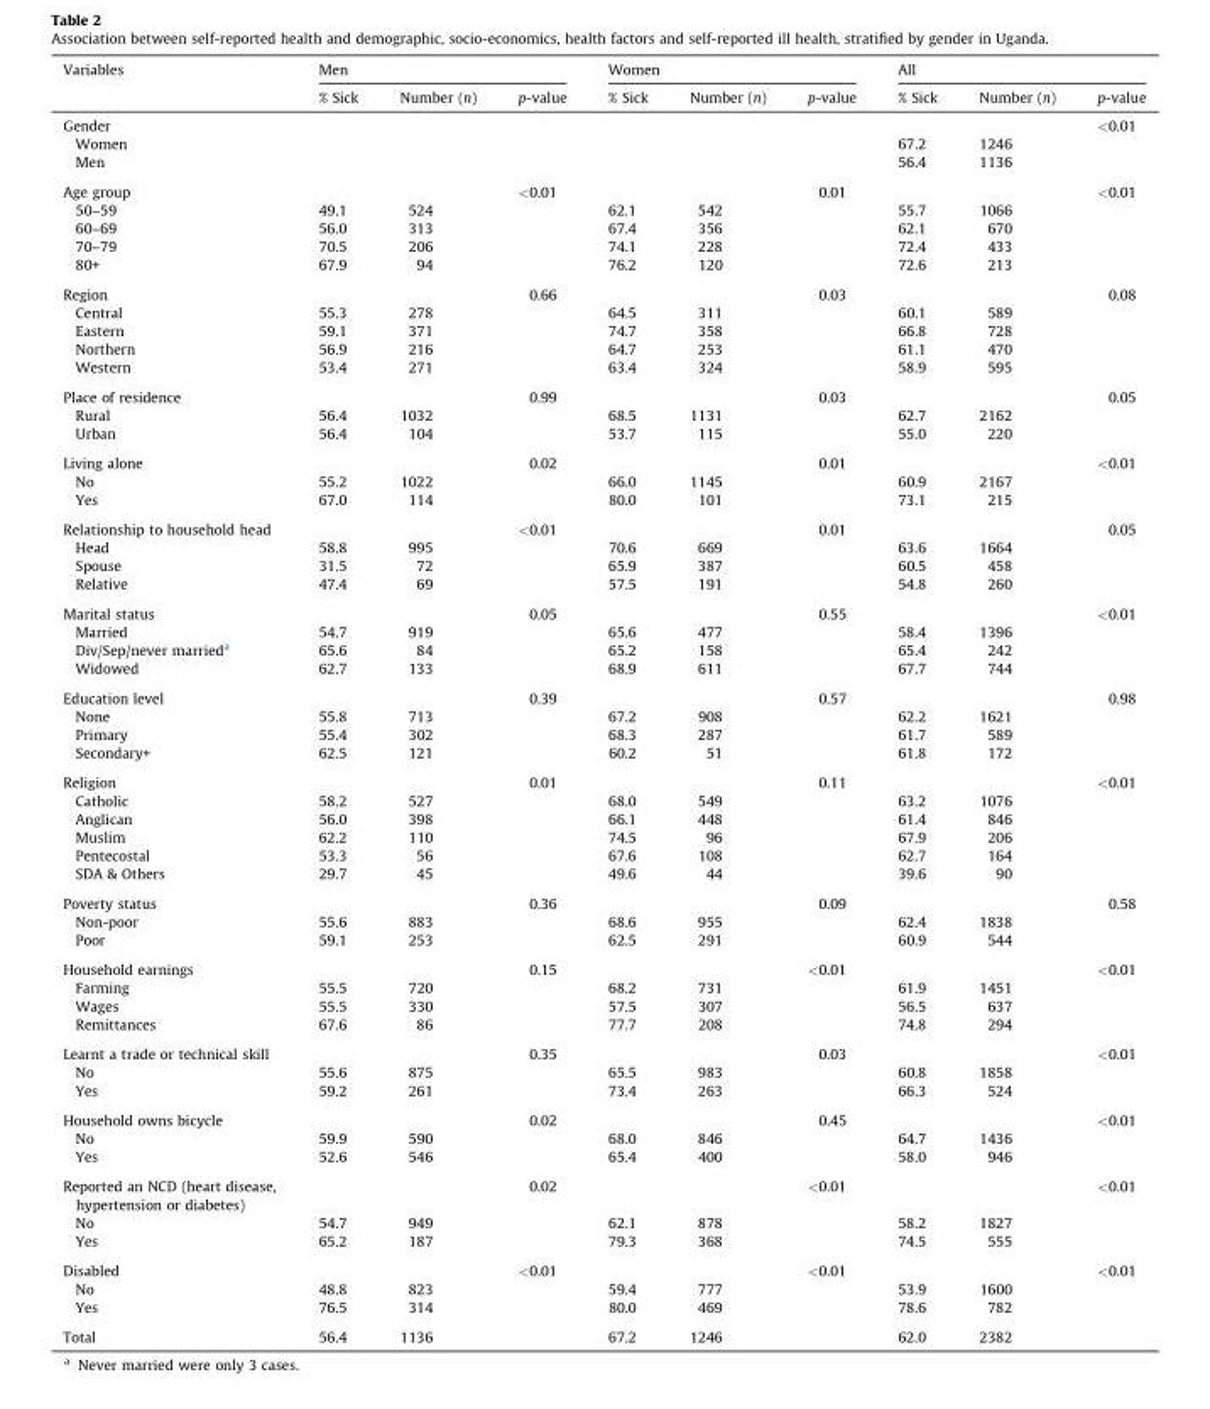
<table><thead><tr><td rowspan="2">Variables</td><td colspan="3">Men</td><td colspan="3">Women</td><td colspan="3">All</td></tr><tr><td>% Sick</td><td>Number (n)</td><td>p-value</td><td>% Sick</td><td>Number (n)</td><td>p-value</td><td>% Sick</td><td>Number (n)</td><td>p-value</td></tr></thead><tbody><tr><td>Gender</td><td></td><td></td><td></td><td></td><td></td><td></td><td></td><td></td><td>&lt;0.01</td></tr><tr><td>Women</td><td></td><td></td><td></td><td></td><td></td><td></td><td>67.2</td><td>1246</td><td></td></tr><tr><td>Men</td><td></td><td></td><td></td><td></td><td></td><td></td><td>56.4</td><td>1136</td><td></td></tr><tr><td>Age group</td><td></td><td></td><td>&lt;0.01</td><td></td><td></td><td>0.01</td><td></td><td></td><td>&lt;0.01</td></tr><tr><td>50–59</td><td>49.1</td><td>524</td><td></td><td>62.1</td><td>542</td><td></td><td>55.7</td><td>1066</td><td></td></tr><tr><td>60–69</td><td>56.0</td><td>313</td><td></td><td>67.4</td><td>356</td><td></td><td>62.1</td><td>670</td><td></td></tr><tr><td>70–79</td><td>70.5</td><td>206</td><td></td><td>74.1</td><td>228</td><td></td><td>72.4</td><td>433</td><td></td></tr><tr><td>80+</td><td>67.9</td><td>94</td><td></td><td>76.2</td><td>120</td><td></td><td>72.6</td><td>213</td><td></td></tr><tr><td>Region</td><td></td><td></td><td>0.66</td><td></td><td></td><td>0.03</td><td></td><td></td><td>0.08</td></tr><tr><td>Central</td><td>55.3</td><td>278</td><td></td><td>64.5</td><td>311</td><td></td><td>60.1</td><td>589</td><td></td></tr><tr><td>Eastern</td><td>59.1</td><td>371</td><td></td><td>74.7</td><td>358</td><td></td><td>66.8</td><td>728</td><td></td></tr><tr><td>Northern</td><td>56.9</td><td>216</td><td></td><td>64.7</td><td>253</td><td></td><td>61.1</td><td>470</td><td></td></tr><tr><td>Western</td><td>53.4</td><td>271</td><td></td><td>63.4</td><td>324</td><td></td><td>58.9</td><td>595</td><td></td></tr><tr><td>Place of residence</td><td></td><td></td><td>0.99</td><td></td><td></td><td>0.03</td><td></td><td></td><td>0.05</td></tr><tr><td>Rural</td><td>56.4</td><td>1032</td><td></td><td>68.5</td><td>1131</td><td></td><td>62.7</td><td>2162</td><td></td></tr><tr><td>Urban</td><td>56.4</td><td>104</td><td></td><td>53.7</td><td>115</td><td></td><td>55.0</td><td>220</td><td></td></tr><tr><td>Living alone</td><td></td><td></td><td>0.02</td><td></td><td></td><td>0.01</td><td></td><td></td><td>&lt;0.01</td></tr><tr><td>No</td><td>55.2</td><td>1022</td><td></td><td>66.0</td><td>1145</td><td></td><td>60.9</td><td>2167</td><td></td></tr><tr><td>Yes</td><td>67.0</td><td>114</td><td></td><td>80.0</td><td>101</td><td></td><td>73.1</td><td>215</td><td></td></tr><tr><td>Relationship to household head</td><td></td><td></td><td>&lt;0.01</td><td></td><td></td><td>0.01</td><td></td><td></td><td>0.05</td></tr><tr><td>Head</td><td>58.8</td><td>995</td><td></td><td>70.6</td><td>669</td><td></td><td>63.6</td><td>1664</td><td></td></tr><tr><td>Spouse</td><td>31.5</td><td>72</td><td></td><td>65.9</td><td>387</td><td></td><td>60.5</td><td>458</td><td></td></tr><tr><td>Relative</td><td>47.4</td><td>69</td><td></td><td>57.5</td><td>191</td><td></td><td>54.8</td><td>260</td><td></td></tr><tr><td>Marital status</td><td></td><td></td><td>0.05</td><td></td><td></td><td>0.55</td><td></td><td></td><td>&lt;0.01</td></tr><tr><td>Married</td><td>54.7</td><td>919</td><td></td><td>65.6</td><td>477</td><td></td><td>58.4</td><td>1396</td><td></td></tr><tr><td>Div/Sep/never married<sup>a</sup></td><td>65.6</td><td>84</td><td></td><td>65.2</td><td>158</td><td></td><td>65.4</td><td>242</td><td></td></tr><tr><td>Widowed</td><td>62.7</td><td>133</td><td></td><td>68.9</td><td>611</td><td></td><td>67.7</td><td>744</td><td></td></tr><tr><td>Education level</td><td></td><td></td><td>0.39</td><td></td><td></td><td>0.57</td><td></td><td></td><td>0.98</td></tr><tr><td>None</td><td>55.8</td><td>713</td><td></td><td>67.2</td><td>908</td><td></td><td>62.2</td><td>1621</td><td></td></tr><tr><td>Primary</td><td>55.4</td><td>302</td><td></td><td>68.3</td><td>287</td><td></td><td>61.7</td><td>589</td><td></td></tr><tr><td>Secondary+</td><td>62.5</td><td>121</td><td></td><td>60.2</td><td>51</td><td></td><td>61.8</td><td>172</td><td></td></tr><tr><td>Religion</td><td></td><td></td><td>0.01</td><td></td><td></td><td>0.11</td><td></td><td></td><td>&lt;0.01</td></tr><tr><td>Catholic</td><td>58.2</td><td>527</td><td></td><td>68.0</td><td>549</td><td></td><td>63.2</td><td>1076</td><td></td></tr><tr><td>Anglican</td><td>56.0</td><td>398</td><td></td><td>66.1</td><td>448</td><td></td><td>61.4</td><td>846</td><td></td></tr><tr><td>Muslim</td><td>62.2</td><td>110</td><td></td><td>74.5</td><td>96</td><td></td><td>67.9</td><td>206</td><td></td></tr><tr><td>Pentecostal</td><td>53.3</td><td>56</td><td></td><td>67.6</td><td>108</td><td></td><td>62.7</td><td>164</td><td></td></tr><tr><td>SDA &amp; Others</td><td>29.7</td><td>45</td><td></td><td>49.6</td><td>44</td><td></td><td>39.6</td><td>90</td><td></td></tr><tr><td>Poverty status</td><td></td><td></td><td>0.36</td><td></td><td></td><td>0.09</td><td></td><td></td><td>0.58</td></tr><tr><td>Non-poor</td><td>55.6</td><td>883</td><td></td><td>68.6</td><td>955</td><td></td><td>62.4</td><td>1838</td><td></td></tr><tr><td>Poor</td><td>59.1</td><td>253</td><td></td><td>62.5</td><td>291</td><td></td><td>60.9</td><td>544</td><td></td></tr><tr><td>Household earnings</td><td></td><td></td><td>0.15</td><td></td><td></td><td>&lt;0.01</td><td></td><td></td><td>&lt;0.01</td></tr><tr><td>Farming</td><td>55.5</td><td>720</td><td></td><td>68.2</td><td>731</td><td></td><td>61.9</td><td>1451</td><td></td></tr><tr><td>Wages</td><td>55.5</td><td>330</td><td></td><td>57.5</td><td>307</td><td></td><td>56.5</td><td>637</td><td></td></tr><tr><td>Remittances</td><td>67.6</td><td>86</td><td></td><td>77.7</td><td>208</td><td></td><td>74.8</td><td>294</td><td></td></tr><tr><td>Learnt a trade or technical skill</td><td></td><td></td><td>0.35</td><td></td><td></td><td>0.03</td><td></td><td></td><td>&lt;0.01</td></tr><tr><td>No</td><td>55.6</td><td>875</td><td></td><td>65.5</td><td>983</td><td></td><td>60.8</td><td>1858</td><td></td></tr><tr><td>Yes</td><td>59.2</td><td>261</td><td></td><td>73.4</td><td>263</td><td></td><td>66.3</td><td>524</td><td></td></tr><tr><td>Household owns bicycle</td><td></td><td></td><td>0.02</td><td></td><td></td><td>0.45</td><td></td><td></td><td>&lt;0.01</td></tr><tr><td>No</td><td>59.9</td><td>590</td><td></td><td>68.0</td><td>846</td><td></td><td>64.7</td><td>1436</td><td></td></tr><tr><td>Yes</td><td>52.6</td><td>546</td><td></td><td>65.4</td><td>400</td><td></td><td>58.0</td><td>946</td><td></td></tr><tr><td>Reported an NCD (heart disease, hypertension or diabetes)</td><td></td><td></td><td>0.02</td><td></td><td></td><td>&lt;0.01</td><td></td><td></td><td>&lt;0.01</td></tr><tr><td>No</td><td>54.7</td><td>949</td><td></td><td>62.1</td><td>878</td><td></td><td>58.2</td><td>1827</td><td></td></tr><tr><td>Yes</td><td>65.2</td><td>187</td><td></td><td>79.3</td><td>368</td><td></td><td>74.5</td><td>555</td><td></td></tr><tr><td>Disabled</td><td></td><td></td><td>&lt;0.01</td><td></td><td></td><td>&lt;0.01</td><td></td><td></td><td>&lt;0.01</td></tr><tr><td>No</td><td>48.8</td><td>823</td><td></td><td>59.4</td><td>777</td><td></td><td>53.9</td><td>1600</td><td></td></tr><tr><td>Yes</td><td>76.5</td><td>314</td><td></td><td>80.0</td><td>469</td><td></td><td>78.6</td><td>782</td><td></td></tr><tr><td>Total</td><td>56.4</td><td>1136</td><td></td><td>67.2</td><td>1246</td><td></td><td>62.0</td><td>2382</td><td></td></tr></tbody></table>